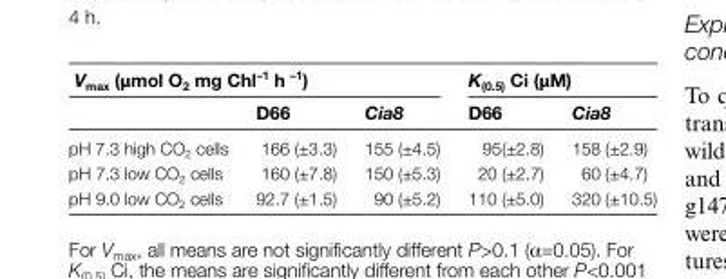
<table><thead><tr><td colspan="3">V<sub>max</sub> (μmol O<sub>2</sub> mg Chl<sup>–1</sup> h <sup>–1</sup>)</td><td colspan="2">K<sub>(0.5)</sub> Ci (μM)</td></tr><tr><td></td><td>D66</td><td>Cia8</td><td>D66</td><td>Cia8</td></tr></thead><tbody><tr><td>pH 7.3 high CO<sub>2</sub> cells</td><td>166 (±3.3)</td><td>155 (±4.5)</td><td>95(±2.8)</td><td>158 (±2.9)</td></tr><tr><td>pH 7.3 low CO<sub>2</sub> cells</td><td>160 (±7.8)</td><td>150 (±5.3)</td><td>20 (±2.7)</td><td>60 (±4.7)</td></tr><tr><td>pH 9.0 low CO<sub>2</sub> cells</td><td>92.7 (±1.5)</td><td>90 (±5.2)</td><td>110 (±5.0)</td><td>320 (±10.5)</td></tr></tbody></table>